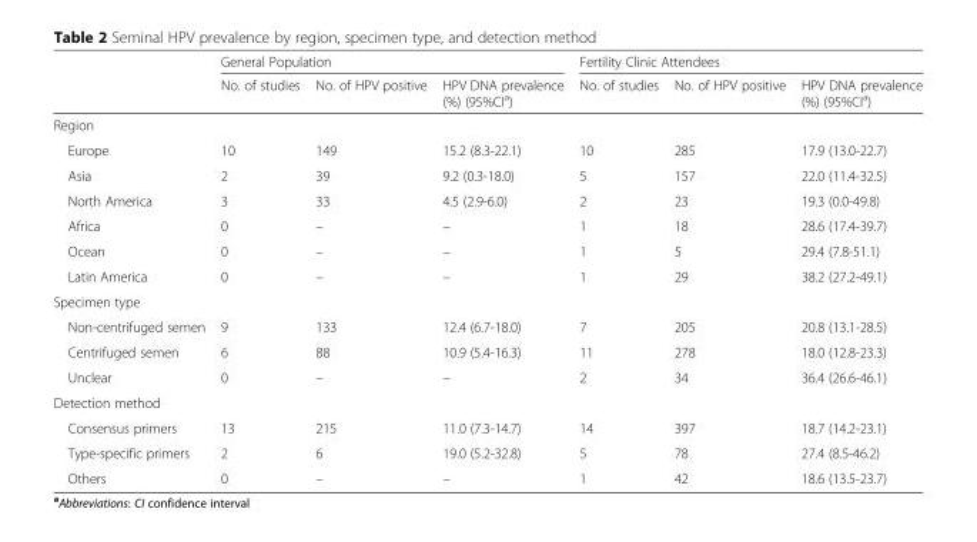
<table><thead><tr><td rowspan="2"></td><td colspan="3">General Population</td><td colspan="3">Fertility Clinic Attendees</td></tr><tr><td>No. of studies</td><td>No. of HPV positive</td><td>HPV DNA prevalence (%) (95%CI<sup>a</sup>)</td><td>No. of studies</td><td>No. of HPV positive</td><td>HPV DNA prevalence (%) (95%CI<sup>a</sup>)</td></tr></thead><tbody><tr><td colspan="7">Region</td></tr><tr><td>Europe</td><td>10</td><td>149</td><td>15.2 (8.3-22.1)</td><td>10</td><td>285</td><td>17.9 (13.0-22.7)</td></tr><tr><td>Asia</td><td>2</td><td>39</td><td>9.2 (0.3-18.0)</td><td>5</td><td>157</td><td>22.0 (11.4-32.5)</td></tr><tr><td>North America</td><td>3</td><td>33</td><td>4.5 (2.9-6.0)</td><td>2</td><td>23</td><td>19.3 (0.0-49.8)</td></tr><tr><td>Africa</td><td>0</td><td>–</td><td>–</td><td>1</td><td>18</td><td>28.6 (17.4-39.7)</td></tr><tr><td>Ocean</td><td>0</td><td>–</td><td>–</td><td>1</td><td>5</td><td>29.4 (7.8-51.1)</td></tr><tr><td>Latin America</td><td>0</td><td>–</td><td>–</td><td>1</td><td>29</td><td>38.2 (27.2-49.1)</td></tr><tr><td colspan="7">Specimen type</td></tr><tr><td>Non-centrifuged semen</td><td>9</td><td>133</td><td>12.4 (6.7-18.0)</td><td>7</td><td>205</td><td>20.8 (13.1-28.5)</td></tr><tr><td>Centrifuged semen</td><td>6</td><td>88</td><td>10.9 (5.4-16.3)</td><td>11</td><td>278</td><td>18.0 (12.8-23.3)</td></tr><tr><td>Unclear</td><td>0</td><td>–</td><td>–</td><td>2</td><td>34</td><td>36.4 (26.6-46.1)</td></tr><tr><td colspan="7">Detection method</td></tr><tr><td>Consensus primers</td><td>13</td><td>215</td><td>11.0 (7.3-14.7)</td><td>14</td><td>397</td><td>18.7 (14.2-23.1)</td></tr><tr><td>Type-specific primers</td><td>2</td><td>6</td><td>19.0 (5.2-32.8)</td><td>5</td><td>78</td><td>27.4 (8.5-46.2)</td></tr><tr><td>Others</td><td>0</td><td>–</td><td>–</td><td>1</td><td>42</td><td>18.6 (13.5-23.7)</td></tr></tbody></table>